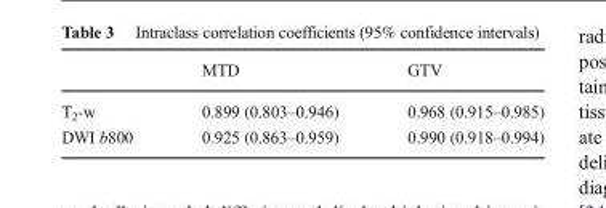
<table><thead><tr><td></td><td>MTD</td><td>GTV</td></tr></thead><tbody><tr><td>T<sub>2</sub>-w</td><td>0.899 (0.803–0.946)</td><td>0.968 (0.915–0.985)</td></tr><tr><td>DWI b800</td><td>0.925 (0.863–0.959)</td><td>0.990 (0.918–0.994)</td></tr></tbody></table>